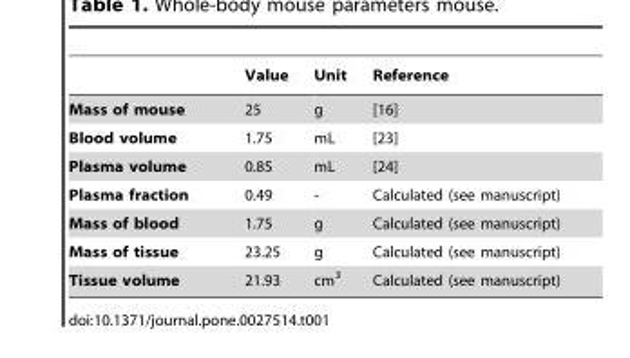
<table><thead><tr><td></td><td>Value</td><td>Unit</td><td>Reference</td></tr></thead><tbody><tr><td>Mass of mouse</td><td>25</td><td>g</td><td>[16]</td></tr><tr><td>Blood volume</td><td>1.75</td><td>mL</td><td>[23]</td></tr><tr><td>Plasma volume</td><td>0.85</td><td>mL</td><td>[24]</td></tr><tr><td>Plasma fraction</td><td>0.49</td><td>-</td><td>Calculated (see manuscript)</td></tr><tr><td>Mass of blood</td><td>1.75</td><td>g</td><td>Calculated (see manuscript)</td></tr><tr><td>Mass of tissue</td><td>23.25</td><td>g</td><td>Calculated (see manuscript)</td></tr><tr><td>Tissue volume</td><td>21.93</td><td>cm<sup>3</sup></td><td>Calculated (see manuscript)</td></tr></tbody></table>